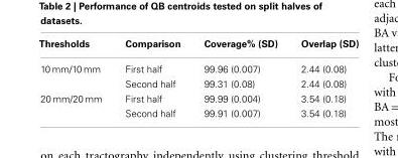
<table><thead><tr><td>Thresholds</td><td>Comparison</td><td>Coverage% (SD)</td><td>Overlap (SD)</td></tr></thead><tbody><tr><td rowspan="2">10 mm/10 mm</td><td>First half</td><td>99.96 (0.007)</td><td>2.44 (0.08)</td></tr><tr><td>Second half</td><td>99.31 (0.08)</td><td>2.44 (0.08)</td></tr><tr><td rowspan="2">20 mm/20 mm</td><td>First half</td><td>99.99 (0.004)</td><td>3.54 (0.18)</td></tr><tr><td>Second half</td><td>99.91 (0.007)</td><td>3.54 (0.18)</td></tr></tbody></table>